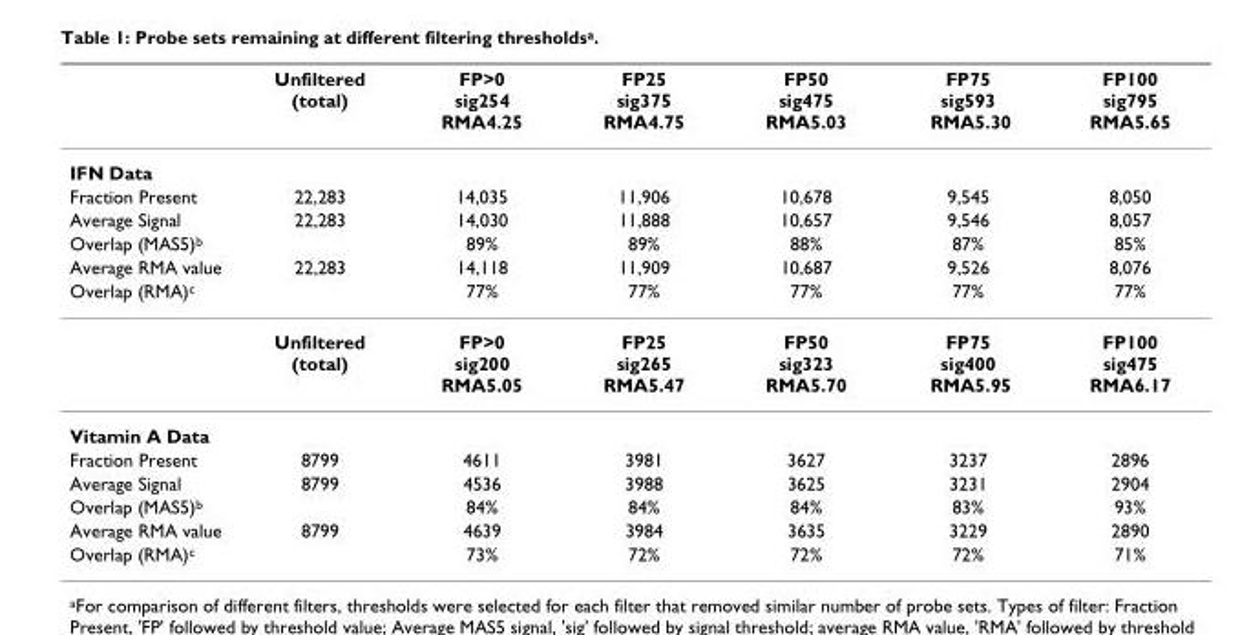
<table><thead><tr><td></td><td>Unfiltered (total)</td><td>FP&gt;0 sig254 RMA4.25</td><td>FP25 sig375 RMA4.75</td><td>FP50 sig475 RMA5.03</td><td>FP75 sig593 RMA5.30</td><td>FP100 sig795 RMA5.65</td></tr></thead><tbody><tr><td colspan="7">IFN Data</td></tr><tr><td>Fraction Present</td><td>22,283</td><td>14,035</td><td>11,906</td><td>10,678</td><td>9,545</td><td>8,050</td></tr><tr><td>Average Signal</td><td>22,283</td><td>14,030</td><td>11,888</td><td>10,657</td><td>9,546</td><td>8,057</td></tr><tr><td>Overlap (MAS5)<sup>b</sup></td><td></td><td>89%</td><td>89%</td><td>88%</td><td>87%</td><td>85%</td></tr><tr><td>Average RMA value</td><td>22,283</td><td>14,118</td><td>11,909</td><td>10,687</td><td>9,526</td><td>8,076</td></tr><tr><td rowspan="2">Overlap (RMA)<sup>c</sup></td><td></td><td>77%</td><td>77%</td><td>77%</td><td>77%</td><td>77%</td></tr><tr><td>Unfiltered (total)</td><td>FP&gt;0 sig200 RMA5.05</td><td>FP25 sig265 RMA5.47</td><td>FP50 sig323 RMA5.70</td><td>FP75 sig400 RMA5.95</td><td>FP100 sig475 RMA6.17</td></tr><tr><td colspan="7">Vitamin A Data</td></tr><tr><td>Fraction Present</td><td>8799</td><td>4611</td><td>3981</td><td>3627</td><td>3237</td><td>2896</td></tr><tr><td>Average Signal</td><td>8799</td><td>4536</td><td>3988</td><td>3625</td><td>3231</td><td>2904</td></tr><tr><td>Overlap (MAS5)<sup>b</sup></td><td></td><td>84%</td><td>84%</td><td>84%</td><td>83%</td><td>93%</td></tr><tr><td>Average RMA value</td><td>8799</td><td>4639</td><td>3984</td><td>3635</td><td>3229</td><td>2890</td></tr><tr><td>Overlap (RMA)<sup>c</sup></td><td></td><td>73%</td><td>72%</td><td>72%</td><td>72%</td><td>71%</td></tr></tbody></table>